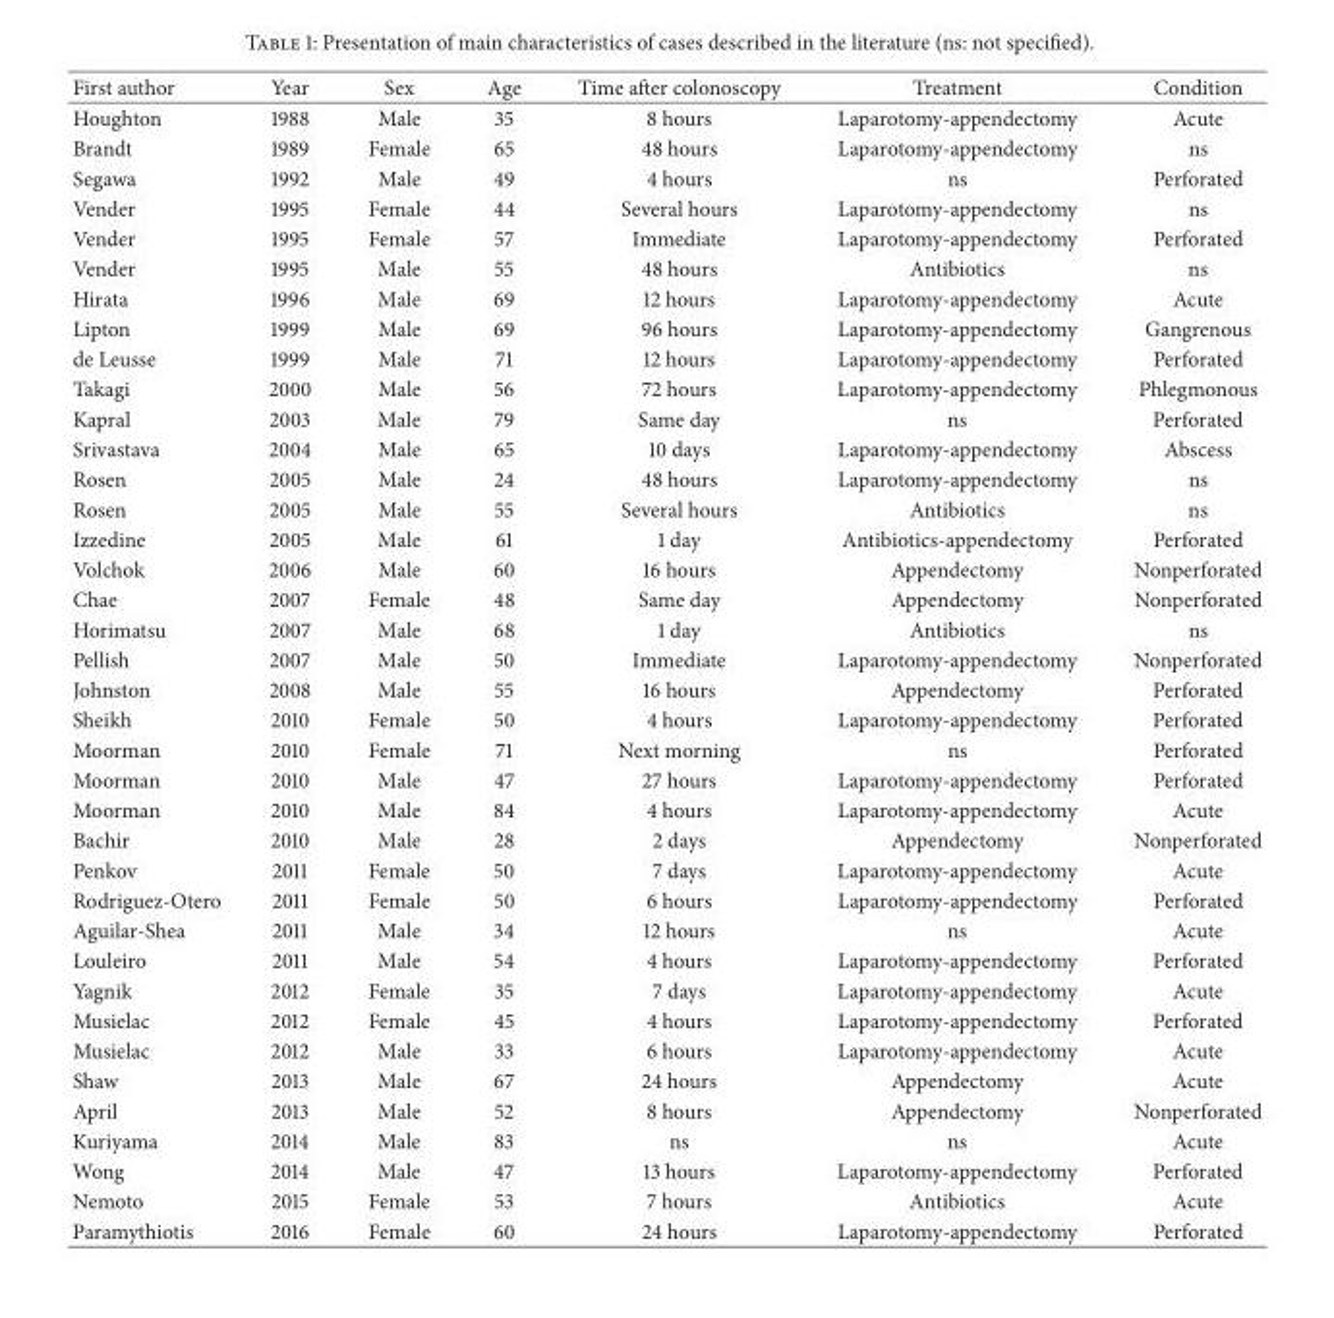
<table><thead><tr><td>First author</td><td>Year</td><td>Sex</td><td>Age</td><td>Time after colonoscopy</td><td>Treatment</td><td>Condition</td></tr></thead><tbody><tr><td>Houghton</td><td>1988</td><td>Male</td><td>35</td><td>8 hours</td><td>Laparotomy-appendectomy</td><td>Acute</td></tr><tr><td>Brandt</td><td>1989</td><td>Female</td><td>65</td><td>48 hours</td><td>Laparotomy-appendectomy</td><td>ns</td></tr><tr><td>Segawa</td><td>1992</td><td>Male</td><td>49</td><td>4 hours</td><td>ns</td><td>Perforated</td></tr><tr><td>Vender</td><td>1995</td><td>Female</td><td>44</td><td>Several hours</td><td>Laparotomy-appendectomy</td><td>ns</td></tr><tr><td>Vender</td><td>1995</td><td>Female</td><td>57</td><td>Immediate</td><td>Laparotomy-appendectomy</td><td>Perforated</td></tr><tr><td>Vender</td><td>1995</td><td>Male</td><td>55</td><td>48 hours</td><td>Antibiotics</td><td>ns</td></tr><tr><td>Hirata</td><td>1996</td><td>Male</td><td>69</td><td>12 hours</td><td>Laparotomy-appendectomy</td><td>Acute</td></tr><tr><td>Lipton</td><td>1999</td><td>Male</td><td>69</td><td>96 hours</td><td>Laparotomy-appendectomy</td><td>Gangrenous</td></tr><tr><td>de Leusse</td><td>1999</td><td>Male</td><td>71</td><td>12 hours</td><td>Laparotomy-appendectomy</td><td>Perforated</td></tr><tr><td>Takagi</td><td>2000</td><td>Male</td><td>56</td><td>72 hours</td><td>Laparotomy-appendectomy</td><td>Phlegmonous</td></tr><tr><td>Kapral</td><td>2003</td><td>Male</td><td>79</td><td>Same day</td><td>ns</td><td>Perforated</td></tr><tr><td>Srivastava</td><td>2004</td><td>Male</td><td>65</td><td>10 days</td><td>Laparotomy-appendectomy</td><td>Abscess</td></tr><tr><td>Rosen</td><td>2005</td><td>Male</td><td>24</td><td>48 hours</td><td>Laparotomy-appendectomy</td><td>ns</td></tr><tr><td>Rosen</td><td>2005</td><td>Male</td><td>55</td><td>Several hours</td><td>Antibiotics</td><td>ns</td></tr><tr><td>Izzedine</td><td>2005</td><td>Male</td><td>61</td><td>1 day</td><td>Antibiotics-appendectomy</td><td>Perforated</td></tr><tr><td>Volchok</td><td>2006</td><td>Male</td><td>60</td><td>16 hours</td><td>Appendectomy</td><td>Nonperforated</td></tr><tr><td>Chae</td><td>2007</td><td>Female</td><td>48</td><td>Same day</td><td>Appendectomy</td><td>Nonperforated</td></tr><tr><td>Horimatsu</td><td>2007</td><td>Male</td><td>68</td><td>1 day</td><td>Antibiotics</td><td>ns</td></tr><tr><td>Pellish</td><td>2007</td><td>Male</td><td>50</td><td>Immediate</td><td>Laparotomy-appendectomy</td><td>Nonperforated</td></tr><tr><td>Johnston</td><td>2008</td><td>Male</td><td>55</td><td>16 hours</td><td>Appendectomy</td><td>Perforated</td></tr><tr><td>Sheikh</td><td>2010</td><td>Female</td><td>50</td><td>4 hours</td><td>Laparotomy-appendectomy</td><td>Perforated</td></tr><tr><td>Moorman</td><td>2010</td><td>Female</td><td>71</td><td>Next morning</td><td>ns</td><td>Perforated</td></tr><tr><td>Moorman</td><td>2010</td><td>Male</td><td>47</td><td>27 hours</td><td>Laparotomy-appendectomy</td><td>Perforated</td></tr><tr><td>Moorman</td><td>2010</td><td>Male</td><td>84</td><td>4 hours</td><td>Laparotomy-appendectomy</td><td>Acute</td></tr><tr><td>Bachir</td><td>2010</td><td>Male</td><td>28</td><td>2 days</td><td>Appendectomy</td><td>Nonperforated</td></tr><tr><td>Penkov</td><td>2011</td><td>Female</td><td>50</td><td>7 days</td><td>Laparotomy-appendectomy</td><td>Acute</td></tr><tr><td>Rodriguez-Otero</td><td>2011</td><td>Female</td><td>50</td><td>6 hours</td><td>Laparotomy-appendectomy</td><td>Perforated</td></tr><tr><td>Aguilar-Shea</td><td>2011</td><td>Male</td><td>34</td><td>12 hours</td><td>ns</td><td>Acute</td></tr><tr><td>Louleiro</td><td>2011</td><td>Male</td><td>54</td><td>4 hours</td><td>Laparotomy-appendectomy</td><td>Perforated</td></tr><tr><td>Yagnik</td><td>2012</td><td>Female</td><td>35</td><td>7 days</td><td>Laparotomy-appendectomy</td><td>Acute</td></tr><tr><td>Musielac</td><td>2012</td><td>Female</td><td>45</td><td>4 hours</td><td>Laparotomy-appendectomy</td><td>Perforated</td></tr><tr><td>Musielac</td><td>2012</td><td>Male</td><td>33</td><td>6 hours</td><td>Laparotomy-appendectomy</td><td>Acute</td></tr><tr><td>Shaw</td><td>2013</td><td>Male</td><td>67</td><td>24 hours</td><td>Appendectomy</td><td>Acute</td></tr><tr><td>April</td><td>2013</td><td>Male</td><td>52</td><td>8 hours</td><td>Appendectomy</td><td>Nonperforated</td></tr><tr><td>Kuriyama</td><td>2014</td><td>Male</td><td>83</td><td>ns</td><td>ns</td><td>Acute</td></tr><tr><td>Wong</td><td>2014</td><td>Male</td><td>47</td><td>13 hours</td><td>Laparotomy-appendectomy</td><td>Perforated</td></tr><tr><td>Nemoto</td><td>2015</td><td>Female</td><td>53</td><td>7 hours</td><td>Antibiotics</td><td>Acute</td></tr><tr><td>Paramythiotis</td><td>2016</td><td>Female</td><td>60</td><td>24 hours</td><td>Laparotomy-appendectomy</td><td>Perforated</td></tr></tbody></table>